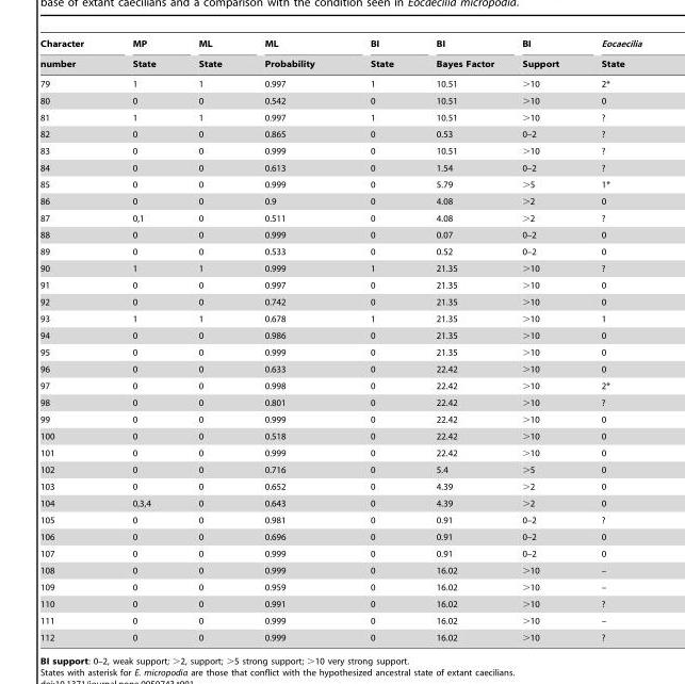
<table><thead><tr><td rowspan="2">Character number</td><td rowspan="2">MP State</td><td rowspan="2">ML State</td><td rowspan="2">ML Probability</td><td rowspan="2">BI State</td><td rowspan="2">BI Bayes Factor</td><td rowspan="2">BI Support</td><td rowspan="2">Eocaecilia State</td></tr><tr></tr></thead><tbody><tr><td>79</td><td>1</td><td>1</td><td>0.997</td><td>1</td><td>10.51</td><td>&gt;10</td><td>2*</td></tr><tr><td>80</td><td>0</td><td>0</td><td>0.542</td><td>0</td><td>10.51</td><td>&gt;10</td><td>0</td></tr><tr><td>81</td><td>1</td><td>1</td><td>0.997</td><td>1</td><td>10.51</td><td>&gt;10</td><td>?</td></tr><tr><td>82</td><td>0</td><td>0</td><td>0.865</td><td>0</td><td>0.53</td><td>0–2</td><td>?</td></tr><tr><td>83</td><td>0</td><td>0</td><td>0.999</td><td>0</td><td>10.51</td><td>&gt;10</td><td>?</td></tr><tr><td>84</td><td>0</td><td>0</td><td>0.613</td><td>0</td><td>1.54</td><td>0–2</td><td>?</td></tr><tr><td>85</td><td>0</td><td>0</td><td>0.999</td><td>0</td><td>5.79</td><td>&gt;5</td><td>1*</td></tr><tr><td>86</td><td>0</td><td>0</td><td>0.9</td><td>0</td><td>4.08</td><td>&gt;2</td><td>0</td></tr><tr><td>87</td><td>0,1</td><td>0</td><td>0.511</td><td>0</td><td>4.08</td><td>&gt;2</td><td>?</td></tr><tr><td>88</td><td>0</td><td>0</td><td>0.999</td><td>0</td><td>0.07</td><td>0–2</td><td>0</td></tr><tr><td>89</td><td>0</td><td>0</td><td>0.533</td><td>0</td><td>0.52</td><td>0–2</td><td>0</td></tr><tr><td>90</td><td>1</td><td>1</td><td>0.999</td><td>1</td><td>21.35</td><td>&gt;10</td><td>?</td></tr><tr><td>91</td><td>0</td><td>0</td><td>0.997</td><td>0</td><td>21.35</td><td>&gt;10</td><td>0</td></tr><tr><td>92</td><td>0</td><td>0</td><td>0.742</td><td>0</td><td>21.35</td><td>&gt;10</td><td>0</td></tr><tr><td>93</td><td>1</td><td>1</td><td>0.678</td><td>1</td><td>21.35</td><td>&gt;10</td><td>1</td></tr><tr><td>94</td><td>0</td><td>0</td><td>0.986</td><td>0</td><td>21.35</td><td>&gt;10</td><td>0</td></tr><tr><td>95</td><td>0</td><td>0</td><td>0.999</td><td>0</td><td>21.35</td><td>&gt;10</td><td>0</td></tr><tr><td>96</td><td>0</td><td>0</td><td>0.633</td><td>0</td><td>22.42</td><td>&gt;10</td><td>0</td></tr><tr><td>97</td><td>0</td><td>0</td><td>0.998</td><td>0</td><td>22.42</td><td>&gt;10</td><td>2*</td></tr><tr><td>98</td><td>0</td><td>0</td><td>0.801</td><td>0</td><td>22.42</td><td>&gt;10</td><td>?</td></tr><tr><td>99</td><td>0</td><td>0</td><td>0.999</td><td>0</td><td>22.42</td><td>&gt;10</td><td>0</td></tr><tr><td>100</td><td>0</td><td>0</td><td>0.518</td><td>0</td><td>22.42</td><td>&gt;10</td><td>0</td></tr><tr><td>101</td><td>0</td><td>0</td><td>0.999</td><td>0</td><td>22.42</td><td>&gt;10</td><td>0</td></tr><tr><td>102</td><td>0</td><td>0</td><td>0.716</td><td>0</td><td>5.4</td><td>&gt;5</td><td>0</td></tr><tr><td>103</td><td>0</td><td>0</td><td>0.652</td><td>0</td><td>4.39</td><td>&gt;2</td><td>0</td></tr><tr><td>104</td><td>0,3,4</td><td>0</td><td>0.643</td><td>0</td><td>4.39</td><td>&gt;2</td><td>0</td></tr><tr><td>105</td><td>0</td><td>0</td><td>0.981</td><td>0</td><td>0.91</td><td>0–2</td><td>?</td></tr><tr><td>106</td><td>0</td><td>0</td><td>0.696</td><td>0</td><td>0.91</td><td>0–2</td><td>0</td></tr><tr><td>107</td><td>0</td><td>0</td><td>0.999</td><td>0</td><td>0.91</td><td>0–2</td><td>0</td></tr><tr><td>108</td><td>0</td><td>0</td><td>0.999</td><td>0</td><td>16.02</td><td>&gt;10</td><td>–</td></tr><tr><td>109</td><td>0</td><td>0</td><td>0.959</td><td>0</td><td>16.02</td><td>&gt;10</td><td>–</td></tr><tr><td>110</td><td>0</td><td>0</td><td>0.991</td><td>0</td><td>16.02</td><td>&gt;10</td><td>?</td></tr><tr><td>111</td><td>0</td><td>0</td><td>0.999</td><td>0</td><td>16.02</td><td>&gt;10</td><td>–</td></tr><tr><td>112</td><td>0</td><td>0</td><td>0.999</td><td>0</td><td>16.02</td><td>&gt;10</td><td>?</td></tr></tbody></table>